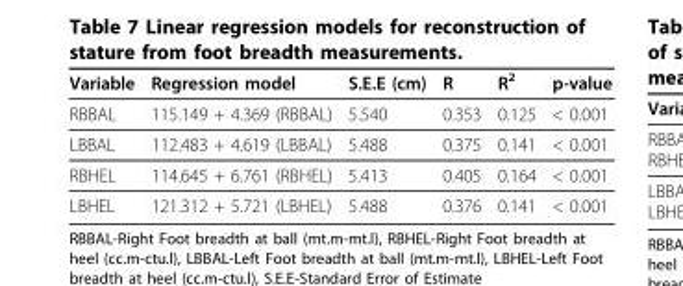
<table><thead><tr><td>Variable</td><td>Regression model</td><td>S.E.E (cm)</td><td>R</td><td>R<sup>2</sup></td><td>p-value</td></tr></thead><tbody><tr><td>RBBAL</td><td>115.149 + 4.369 (RBBAL)</td><td>5.540</td><td>0.353</td><td>0.125</td><td>&lt; 0.001</td></tr><tr><td>LBBAL</td><td>112.483 + 4.619 (LBBAL)</td><td>5.488</td><td>0.375</td><td>0.141</td><td>&lt; 0.001</td></tr><tr><td>RBHEL</td><td>114.645 + 6.761 (RBHEL)</td><td>5.413</td><td>0.405</td><td>0.164</td><td>&lt; 0.001</td></tr><tr><td>LBHEL</td><td>121.312 + 5.721 (LBHEL)</td><td>5.488</td><td>0.376</td><td>0.141</td><td>&lt; 0.001</td></tr></tbody></table>